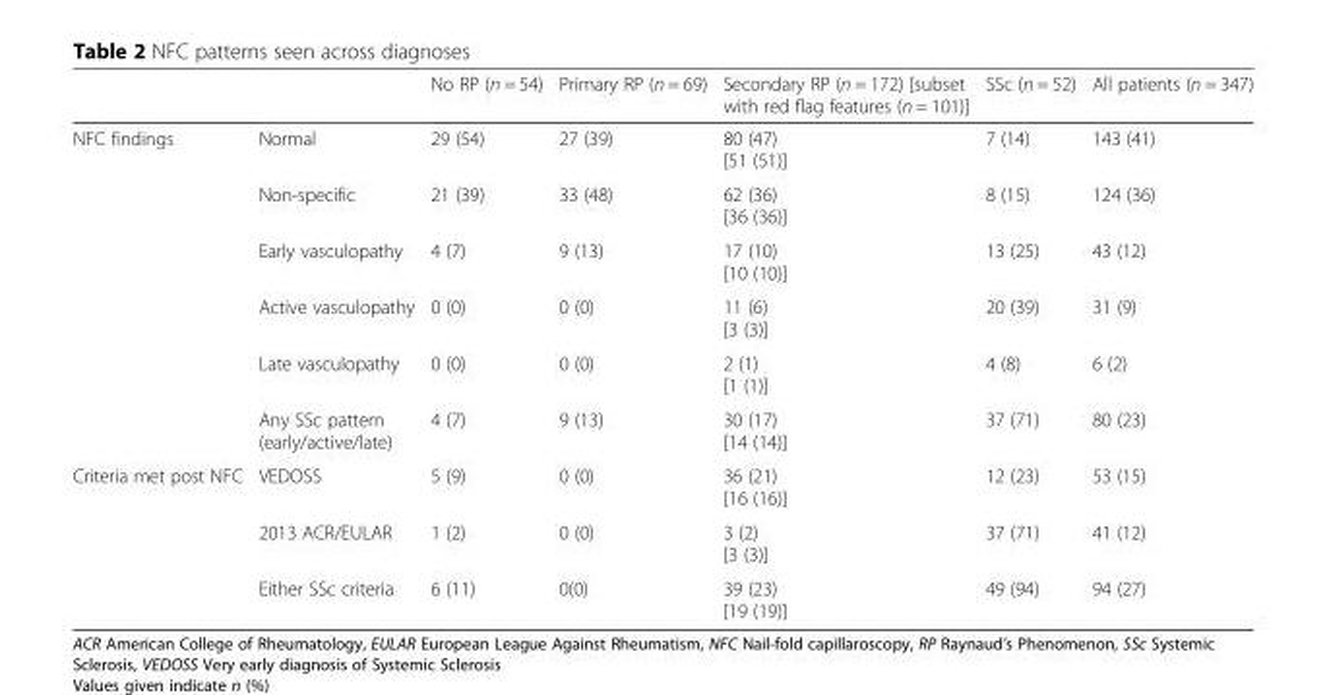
<table><thead><tr><td></td><td></td><td>No RP (n = 54)</td><td>Primary RP (n = 69)</td><td>Secondary RP (n = 172) [subset with red flag features (n = 101)]</td><td>SSc (n = 52)</td><td>All patients (n = 347)</td></tr></thead><tbody><tr><td rowspan="6">NFC findings</td><td>Normal</td><td>29 (54)</td><td>27 (39)</td><td>80 (47) [51 (51)]</td><td>7 (14)</td><td>143 (41)</td></tr><tr><td>Non-specific</td><td>21 (39)</td><td>33 (48)</td><td>62 (36) [36 (36)]</td><td>8 (15)</td><td>124 (36)</td></tr><tr><td>Early vasculopathy</td><td>4 (7)</td><td>9 (13)</td><td>17 (10) [10 (10)]</td><td>13 (25)</td><td>43 (12)</td></tr><tr><td>Active vasculopathy</td><td>0 (0)</td><td>0 (0)</td><td>11 (6) [3 (3)]</td><td>20 (39)</td><td>31 (9)</td></tr><tr><td>Late vasculopathy</td><td>0 (0)</td><td>0 (0)</td><td>2 (1) [1 (1)]</td><td>4 (8)</td><td>6 (2)</td></tr><tr><td>Any SSc pattern (early/active/late)</td><td>4 (7)</td><td>9 (13)</td><td>30 (17) [14 (14)]</td><td>37 (71)</td><td>80 (23)</td></tr><tr><td rowspan="3">Criteria met post NFC</td><td>VEDOSS</td><td>5 (9)</td><td>0 (0)</td><td>36 (21) [16 (16)]</td><td>12 (23)</td><td>53 (15)</td></tr><tr><td>2013 ACR/EULAR</td><td>1 (2)</td><td>0 (0)</td><td>3 (2) [3 (3)]</td><td>37 (71)</td><td>41 (12)</td></tr><tr><td>Either SSc criteria</td><td>6 (11)</td><td>0(0)</td><td>39 (23) [19 (19)]</td><td>49 (94)</td><td>94 (27)</td></tr></tbody></table>